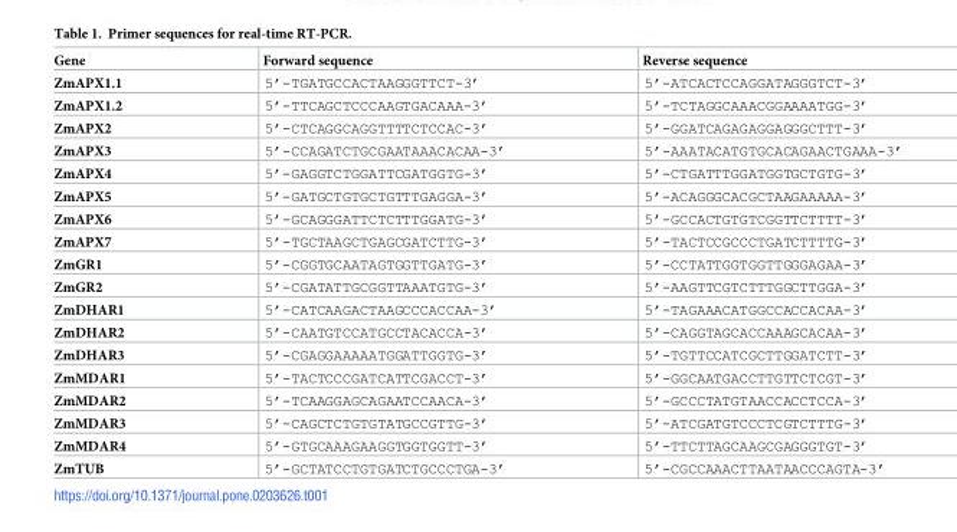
<table><thead><tr><td>Gene</td><td>Forward sequence</td><td>Reverse sequence</td></tr></thead><tbody><tr><td>ZmAPX1.1</td><td>5’-TGATGCCACTAAGGGTTCT-3’</td><td>5’-ATCACTCCAGGATAGGGTCT-3’</td></tr><tr><td>ZmAPX1.2</td><td>5’-TTCAGCTCCCAAGTGACAAA-3’</td><td>5’-TCTAGGCAAACGGAAAATGG-3’</td></tr><tr><td>ZmAPX2</td><td>5’-CTCAGGCAGGTTTTCTCCAC-3’</td><td>5’-GGATCAGAGAGGAGGGCTTT-3’</td></tr><tr><td>ZmAPX3</td><td>5’-CCAGATCTGCGAATAAACACAA-3’</td><td>5’-AAATACATGTGCACAGAACTGAAA-3’</td></tr><tr><td>ZmAPX4</td><td>5’-GAGGTCTGGATTCGATGGTG-3’</td><td>5’-CTGATTTGGATGGTGCTGTG-3’</td></tr><tr><td>ZmAPX5</td><td>5’-GATGCTGTGCTGTTTGAGGA-3’</td><td>5’-ACAGGGCACGCTAAGAAAAA-3’</td></tr><tr><td>ZmAPX6</td><td>5’-GCAGGGATTCTCTTTGGATG-3’</td><td>5’-GCCACTGTGTCGGTTCTTTT-3’</td></tr><tr><td>ZmAPX7</td><td>5’-TGCTAAGCTGAGCGATCTTG-3’</td><td>5’-TACTCCGCCCTGATCTTTTG-3’</td></tr><tr><td>ZmGR1</td><td>5’-CGGTGCAATAGTGGTTGATG-3’</td><td>5’-CCTATTGGTGGTTGGGAGAA-3’</td></tr><tr><td>ZmGR2</td><td>5’-CGATATTGCGGTTAAATGTG-3’</td><td>5’-AAGTTCGTCTTTGGCTTGGA-3’</td></tr><tr><td>ZmDHAR1</td><td>5’-CATCAAGACTAAGCCCACCAA-3’</td><td>5’-TAGAAACATGGCCACCACAA-3’</td></tr><tr><td>ZmDHAR2</td><td>5’-CAATGTCCATGCCTACACCA-3’</td><td>5’-CAGGTAGCACCAAAGCACAA-3’</td></tr><tr><td>ZmDHAR3</td><td>5’-CGAGGAAAAATGGATTGGTG-3’</td><td>5’-TGTTCCATCGCTTGGATCTT-3’</td></tr><tr><td>ZmMDAR1</td><td>5’-TACTCCCGATCATTCGACCT-3’</td><td>5’-GGCAATGACCTTGTTCTCGT-3’</td></tr><tr><td>ZmMDAR2</td><td>5’-TCAAGGAGCAGAATCCAACA-3’</td><td>5’-GCCCTATGTAACCACCTCCA-3’</td></tr><tr><td>ZmMDAR3</td><td>5’-CAGCTCTGTGTATGCCGTTG-3’</td><td>5’-ATCGATGTCCCTCGTCTTTG-3’</td></tr><tr><td>ZmMDAR4</td><td>5’-GTGCAAAGAAGGTGGTGGTT-3’</td><td>5’-TTCTTAGCAAGCGAGGGTGT-3’</td></tr><tr><td>ZmTUB</td><td>5’-GCTATCCTGTGATCTGCCCTGA-3’</td><td>5’-CGCCAAACTTAATAACCCAGTA-3’</td></tr></tbody></table>